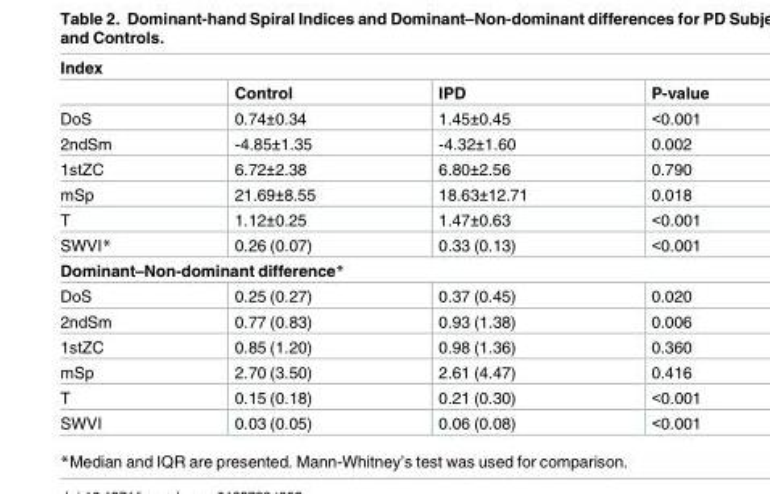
<table><tbody><tr><td colspan="4">Index</td></tr><tr><td></td><td>Control</td><td>IPD</td><td>P-value</td></tr><tr><td>DoS</td><td>0.74±0.34</td><td>1.45±0.45</td><td>&lt;0.001</td></tr><tr><td>2ndSm</td><td>-4.85±1.35</td><td>-4.32±1.60</td><td>0.002</td></tr><tr><td>1stZC</td><td>6.72±2.38</td><td>6.80±2.56</td><td>0.790</td></tr><tr><td>mSp</td><td>21.69±8.55</td><td>18.63±12.71</td><td>0.018</td></tr><tr><td>T</td><td>1.12±0.25</td><td>1.47±0.63</td><td>&lt;0.001</td></tr><tr><td>SWVI*</td><td>0.26 (0.07)</td><td>0.33 (0.13)</td><td>&lt;0.001</td></tr><tr><td colspan="4">Dominant–Non-dominant difference*</td></tr><tr><td>DoS</td><td>0.25 (0.27)</td><td>0.37 (0.45)</td><td>0.020</td></tr><tr><td>2ndSm</td><td>0.77 (0.83)</td><td>0.93 (1.38)</td><td>0.006</td></tr><tr><td>1stZC</td><td>0.85 (1.20)</td><td>0.98 (1.36)</td><td>0.360</td></tr><tr><td>mSp</td><td>2.70 (3.50)</td><td>2.61 (4.47)</td><td>0.416</td></tr><tr><td>T</td><td>0.15 (0.18)</td><td>0.21 (0.30)</td><td>&lt;0.001</td></tr><tr><td>SWVI</td><td>0.03 (0.05)</td><td>0.06 (0.08)</td><td>&lt;0.001</td></tr></tbody></table>